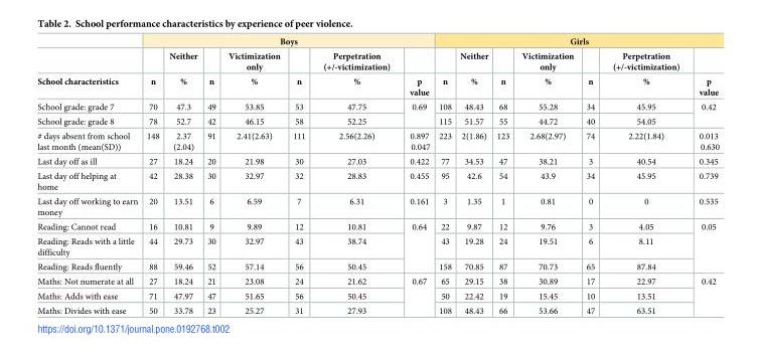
<table><thead><tr><td rowspan="3">School characteristics</td><td colspan="7">Boys</td><td colspan="7">Girls</td></tr><tr><td rowspan="2">n</td><td rowspan="2">Neither %</td><td rowspan="2">n</td><td rowspan="2">Victimization only %</td><td rowspan="2">n</td><td rowspan="2">Perpetration (+/-victimization) %</td><td rowspan="2">p value</td><td rowspan="2">n</td><td rowspan="2">Neither %</td><td rowspan="2">n</td><td rowspan="2">Victimization only %</td><td rowspan="2">n</td><td rowspan="2">Perpetration (+/-victimization) %</td><td rowspan="2">p value</td></tr><tr></tr></thead><tbody><tr><td>School grade: grade 7</td><td>70</td><td>47.3</td><td>49</td><td>53.85</td><td>53</td><td>47.75</td><td rowspan="2">0.69</td><td>108</td><td>48.43</td><td>68</td><td>55.28</td><td>34</td><td>45.95</td><td rowspan="2">0.42</td></tr><tr><td>School grade: grade 8</td><td>78</td><td>52.7</td><td>42</td><td>46.15</td><td>58</td><td>52.25</td><td>115</td><td>51.57</td><td>55</td><td>44.72</td><td>40</td><td>54.05</td></tr><tr><td># days absent from school last month (mean(SD))</td><td>148</td><td>2.37 (2.04)</td><td>91</td><td>2.41(2.63)</td><td>111</td><td>2.56(2.26)</td><td>0.897 0.047</td><td>223</td><td>2(1.86)</td><td>123</td><td>2.68(2.97)</td><td>74</td><td>2.22(1.84)</td><td>0.013 0.630</td></tr><tr><td>Last day off as ill</td><td>27</td><td>18.24</td><td>20</td><td>21.98</td><td>30</td><td>27.03</td><td>0.422</td><td>77</td><td>34.53</td><td>47</td><td>38.21</td><td>3</td><td>40.54</td><td>0.345</td></tr><tr><td>Last day off helping at home</td><td>42</td><td>28.38</td><td>30</td><td>32.97</td><td>32</td><td>28.83</td><td>0.455</td><td>95</td><td>42.6</td><td>54</td><td>43.9</td><td>34</td><td>45.95</td><td>0.739</td></tr><tr><td>Last day off working to earn money</td><td>20</td><td>13.51</td><td>6</td><td>6.59</td><td>7</td><td>6.31</td><td>0.161</td><td>3</td><td>1.35</td><td>1</td><td>0.81</td><td>0</td><td>0</td><td>0.535</td></tr><tr><td>Reading: Cannot read</td><td>16</td><td>10.81</td><td>9</td><td>9.89</td><td>12</td><td>10.81</td><td rowspan="3">0.64</td><td>22</td><td>9.87</td><td>12</td><td>9.76</td><td>3</td><td>4.05</td><td rowspan="3">0.05</td></tr><tr><td>Reading: Reads with a little difficulty</td><td>44</td><td>29.73</td><td>30</td><td>32.97</td><td>43</td><td>38.74</td><td>43</td><td>19.28</td><td>24</td><td>19.51</td><td>6</td><td>8.11</td></tr><tr><td>Reading: Reads fluently</td><td>88</td><td>59.46</td><td>52</td><td>57.14</td><td>56</td><td>50.45</td><td>158</td><td>70.85</td><td>87</td><td>70.73</td><td>65</td><td>87.84</td></tr><tr><td>Maths: Not numerate at all</td><td>27</td><td>18.24</td><td>21</td><td>23.08</td><td>24</td><td>21.62</td><td rowspan="3">0.67</td><td>65</td><td>29.15</td><td>38</td><td>30.89</td><td>17</td><td>22.97</td><td rowspan="3">0.42</td></tr><tr><td>Maths: Adds with ease</td><td>71</td><td>47.97</td><td>47</td><td>51.65</td><td>56</td><td>50.45</td><td>50</td><td>22.42</td><td>19</td><td>15.45</td><td>10</td><td>13.51</td></tr><tr><td>Maths: Divides with ease</td><td>50</td><td>33.78</td><td>23</td><td>25.27</td><td>31</td><td>27.93</td><td>108</td><td>48.43</td><td>66</td><td>53.66</td><td>47</td><td>63.51</td></tr></tbody></table>